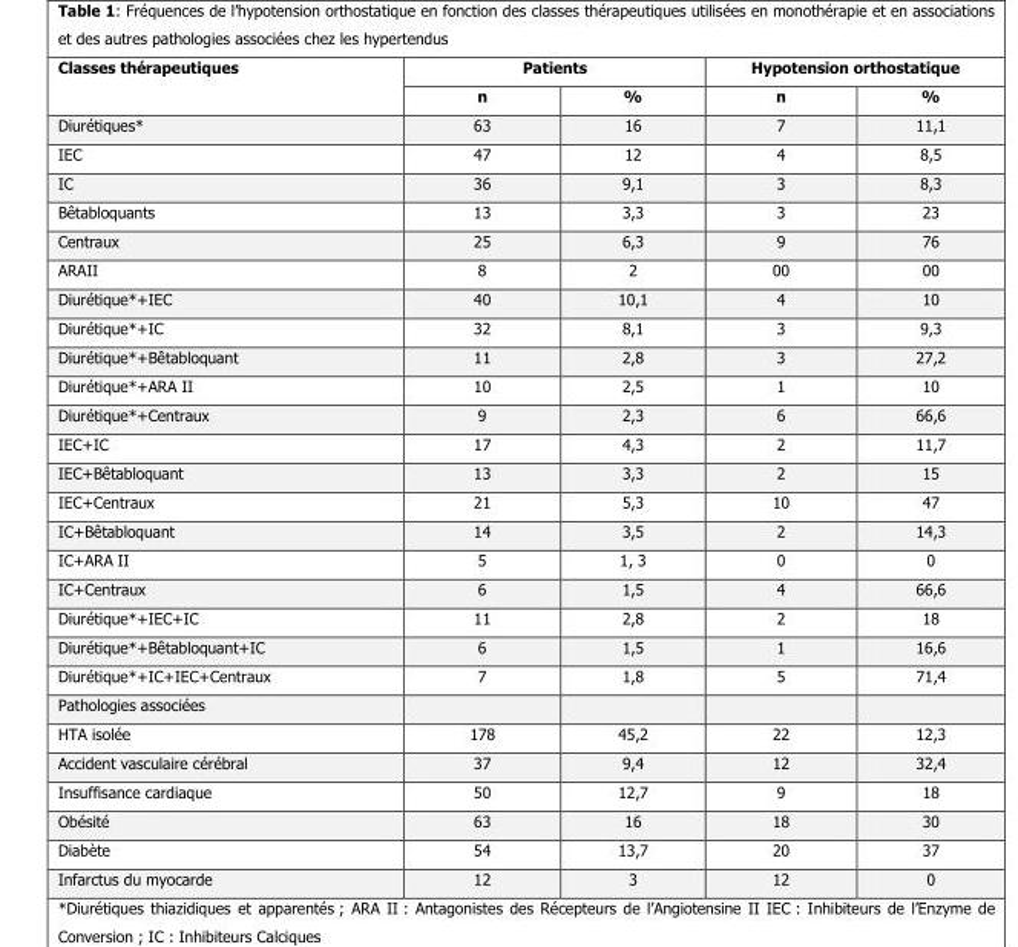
<table><thead><tr><td rowspan="2">Classes thérapeutiques</td><td colspan="2">Patients</td><td colspan="2">Hypotension orthostatique</td></tr><tr><td>n</td><td>%</td><td>n</td><td>%</td></tr></thead><tbody><tr><td>Diurétiques*</td><td>63</td><td>16</td><td>7</td><td>11,1</td></tr><tr><td>IEC</td><td>47</td><td>12</td><td>4</td><td>8,5</td></tr><tr><td>IC</td><td>36</td><td>9,1</td><td>3</td><td>8,3</td></tr><tr><td>Bêtabloquants</td><td>13</td><td>3,3</td><td>3</td><td>23</td></tr><tr><td>Centraux</td><td>25</td><td>6,3</td><td>9</td><td>76</td></tr><tr><td>ARAII</td><td>8</td><td>2</td><td>00</td><td>00</td></tr><tr><td>Diurétique*+IEC</td><td>40</td><td>10,1</td><td>4</td><td>10</td></tr><tr><td>Diurétique*+IC</td><td>32</td><td>8,1</td><td>3</td><td>9,3</td></tr><tr><td>Diurétique*+Bêtabloquant</td><td>11</td><td>2,8</td><td>3</td><td>27,2</td></tr><tr><td>Diurétique*+ARA II</td><td>10</td><td>2,5</td><td>1</td><td>10</td></tr><tr><td>Diurétique*+Centraux</td><td>9</td><td>2,3</td><td>6</td><td>66,6</td></tr><tr><td>IEC+IC</td><td>17</td><td>4,3</td><td>2</td><td>11,7</td></tr><tr><td>IEC+Bêtabloquant</td><td>13</td><td>3,3</td><td>2</td><td>15</td></tr><tr><td>IEC+Centraux</td><td>21</td><td>5,3</td><td>10</td><td>47</td></tr><tr><td>IC+Bêtabloquant</td><td>14</td><td>3,5</td><td>2</td><td>14,3</td></tr><tr><td>IC+ARA II</td><td>5</td><td>1, 3</td><td>0</td><td>0</td></tr><tr><td>IC+Centraux</td><td>6</td><td>1,5</td><td>4</td><td>66,6</td></tr><tr><td>Diurétique*+IEC+IC</td><td>11</td><td>2,8</td><td>2</td><td>18</td></tr><tr><td>Diurétique*+Bêtabloquant+IC</td><td>6</td><td>1,5</td><td>1</td><td>16,6</td></tr><tr><td>Diurétique*+IC+IEC+Centraux</td><td>7</td><td>1,8</td><td>5</td><td>71,4</td></tr><tr><td colspan="5">Pathologies associées</td></tr><tr><td>HTA isolée</td><td>178</td><td>45,2</td><td>22</td><td>12,3</td></tr><tr><td>Accident vasculaire cérébral</td><td>37</td><td>9,4</td><td>12</td><td>32,4</td></tr><tr><td>Insuffisance cardiaque</td><td>50</td><td>12,7</td><td>9</td><td>18</td></tr><tr><td>Obésité</td><td>63</td><td>16</td><td>18</td><td>30</td></tr><tr><td>Diabète</td><td>54</td><td>13,7</td><td>20</td><td>37</td></tr><tr><td>Infarctus du myocarde</td><td>12</td><td>3</td><td>12</td><td>0</td></tr></tbody></table>